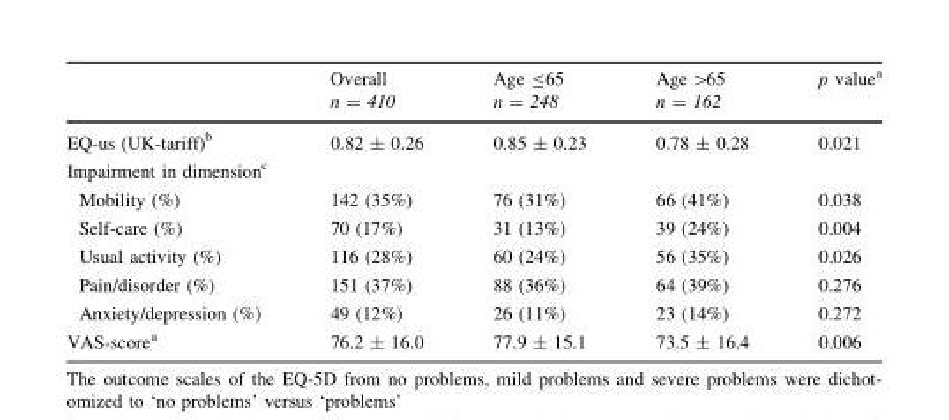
<table><thead><tr><td rowspan="2"></td><td rowspan="2">Overall n = 410</td><td rowspan="2">Age ≤65 n = 248</td><td rowspan="2">Age &gt;65 n = 162</td><td rowspan="2">p value<sup>a</sup></td></tr><tr></tr></thead><tbody><tr><td>EQ-us (UK-tariff)<sup>b</sup></td><td>0.82 ± 0.26</td><td>0.85 ± 0.23</td><td>0.78 ± 0.28</td><td>0.021</td></tr><tr><td colspan="5">Impairment in dimension<sup>c</sup></td></tr><tr><td>Mobility (%)</td><td>142 (35%)</td><td>76 (31%)</td><td>66 (41%)</td><td>0.038</td></tr><tr><td>Self-care (%)</td><td>70 (17%)</td><td>31 (13%)</td><td>39 (24%)</td><td>0.004</td></tr><tr><td>Usual activity (%)</td><td>116 (28%)</td><td>60 (24%)</td><td>56 (35%)</td><td>0.026</td></tr><tr><td>Pain/disorder (%)</td><td>151 (37%)</td><td>88 (36%)</td><td>64 (39%)</td><td>0.276</td></tr><tr><td>Anxiety/depression (%)</td><td>49 (12%)</td><td>26 (11%)</td><td>23 (14%)</td><td>0.272</td></tr><tr><td>VAS-score<sup>a</sup></td><td>76.2 ± 16.0</td><td>77.9 ± 15.1</td><td>73.5 ± 16.4</td><td>0.006</td></tr></tbody></table>